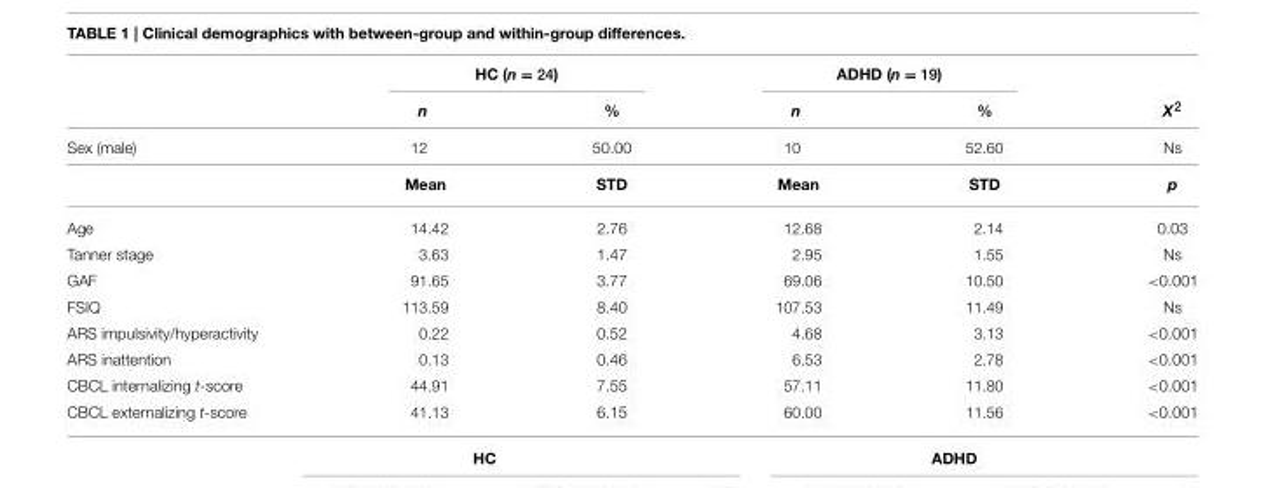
<table><thead><tr><td rowspan="4">Sex (male)</td><td colspan="2">HC (n = 24)</td><td colspan="2">ADHD (n = 19)</td><td rowspan="4">X2 Ns p</td></tr><tr><td rowspan="3">n 12 Mean</td><td rowspan="3">% 50.00 STD</td><td rowspan="3">n 10 Mean</td><td rowspan="3">% 52.60 STD</td></tr><tr></tr><tr></tr></thead><tbody><tr><td>Age</td><td>14.42</td><td>2.76</td><td>12.68</td><td>2.14</td><td>0.03</td></tr><tr><td>Tanner stage</td><td>3.63</td><td>1.47</td><td>2.95</td><td>1.55</td><td>Ns</td></tr><tr><td>GAF</td><td>91.65</td><td>3.77</td><td>69.06</td><td>10.50</td><td>&lt;0.001</td></tr><tr><td>FSIQ</td><td>113.59</td><td>8.40</td><td>107.53</td><td>11.49</td><td>Ns</td></tr><tr><td>ARS impulsivity/hyperactivity</td><td>0.22</td><td>0.52</td><td>4.68</td><td>3.13</td><td>&lt;0.001</td></tr><tr><td>ARS inattention</td><td>0.13</td><td>0.46</td><td>6.53</td><td>2.78</td><td>&lt;0.001</td></tr><tr><td>CBCL internalizing t-score</td><td>44.91</td><td>7.55</td><td>57.11</td><td>11.80</td><td>&lt;0.001</td></tr><tr><td>CBCL externalizing t-score</td><td>41.13</td><td>6.15</td><td>60.00</td><td>11.56</td><td>&lt;0.001</td></tr></tbody></table>